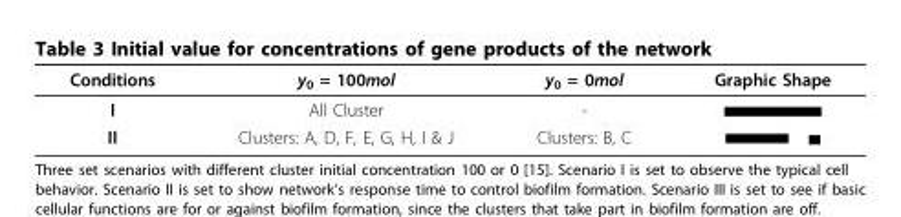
<table><thead><tr><td>Conditions</td><td>y<sub>0</sub> = 100mol</td><td>y<sub>0</sub> = 0mol</td><td>Graphic Shape</td></tr></thead><tbody><tr><td>I</td><td>All Cluster</td><td>-</td><td></td></tr><tr><td>II</td><td>Clusters: A, D, F, E, G, H, I &amp; J</td><td>Clusters: B, C</td><td></td></tr></tbody></table>